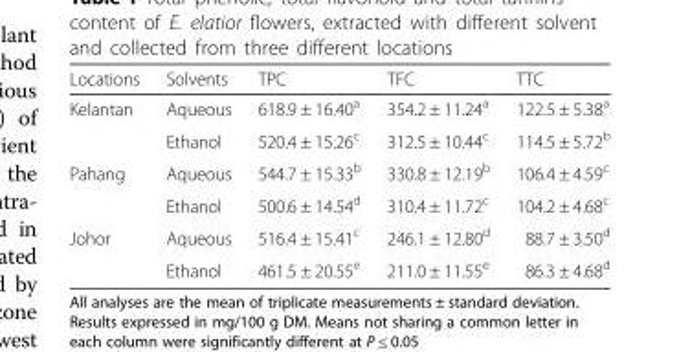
<table><thead><tr><td>Locations</td><td>Solvents</td><td>TPC</td><td>TFC</td><td>TTC</td></tr></thead><tbody><tr><td rowspan="2">Kelantan</td><td>Aqueous</td><td>618.9 ± 16.40<sup>a</sup></td><td>354.2 ± 11.24<sup>a</sup></td><td>122.5 ± 5.38<sup>a</sup></td></tr><tr><td>Ethanol</td><td>520.4 ± 15.26<sup>c</sup></td><td>312.5 ± 10.44<sup>c</sup></td><td>114.5 ± 5.72<sup>b</sup></td></tr><tr><td rowspan="2">Pahang</td><td>Aqueous</td><td>544.7 ± 15.33<sup>b</sup></td><td>330.8 ± 12.19<sup>b</sup></td><td>106.4 ± 4.59<sup>c</sup></td></tr><tr><td>Ethanol</td><td>500.6 ± 14.54<sup>d</sup></td><td>310.4 ± 11.72<sup>c</sup></td><td>104.2 ± 4.68<sup>c</sup></td></tr><tr><td rowspan="2">Johor</td><td>Aqueous</td><td>516.4 ± 15.41<sup>c</sup></td><td>246.1 ± 12.80<sup>d</sup></td><td>88.7 ± 3.50<sup>d</sup></td></tr><tr><td>Ethanol</td><td>461.5 ± 20.55<sup>e</sup></td><td>211.0 ± 11.55<sup>e</sup></td><td>86.3 ± 4.68<sup>d</sup></td></tr></tbody></table>